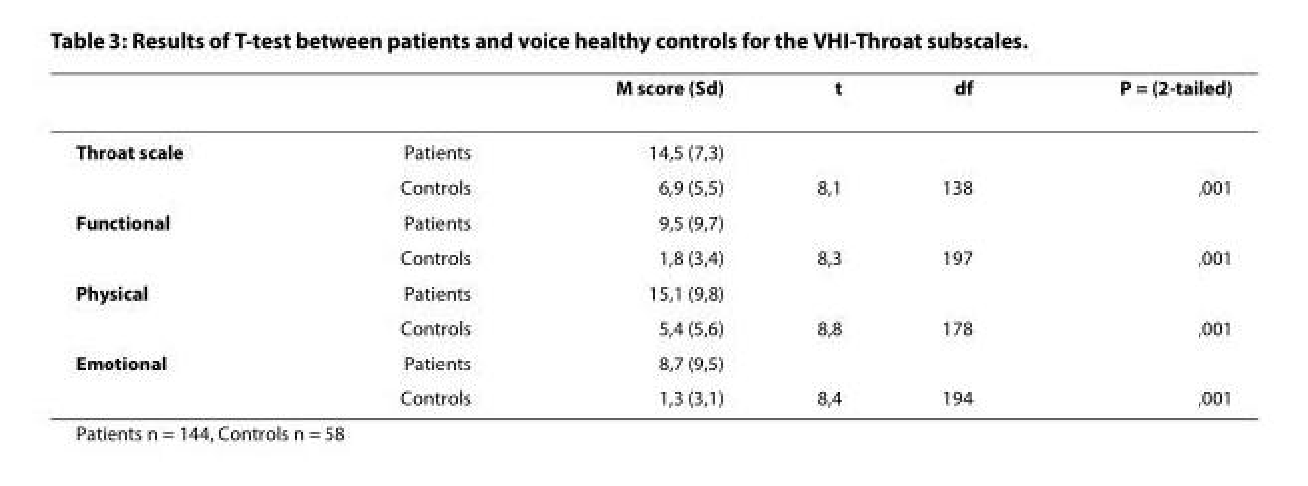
<table><thead><tr><td></td><td></td><td>M score (Sd)</td><td>t</td><td>df</td><td>P = (2-tailed)</td></tr></thead><tbody><tr><td rowspan="2">Throat scale</td><td>Patients</td><td>14,5 (7,3)</td><td></td><td></td><td></td></tr><tr><td>Controls</td><td>6,9 (5,5)</td><td>8,1</td><td>138</td><td>,001</td></tr><tr><td rowspan="2">Functional</td><td>Patients</td><td>9,5 (9,7)</td><td></td><td></td><td></td></tr><tr><td>Controls</td><td>1,8 (3,4)</td><td>8,3</td><td>197</td><td>,001</td></tr><tr><td rowspan="2">Physical</td><td>Patients</td><td>15,1 (9,8)</td><td></td><td></td><td></td></tr><tr><td>Controls</td><td>5,4 (5,6)</td><td>8,8</td><td>178</td><td>,001</td></tr><tr><td rowspan="2">Emotional</td><td>Patients</td><td>8,7 (9,5)</td><td></td><td></td><td></td></tr><tr><td>Controls</td><td>1,3 (3,1)</td><td>8,4</td><td>194</td><td>,001</td></tr></tbody></table>